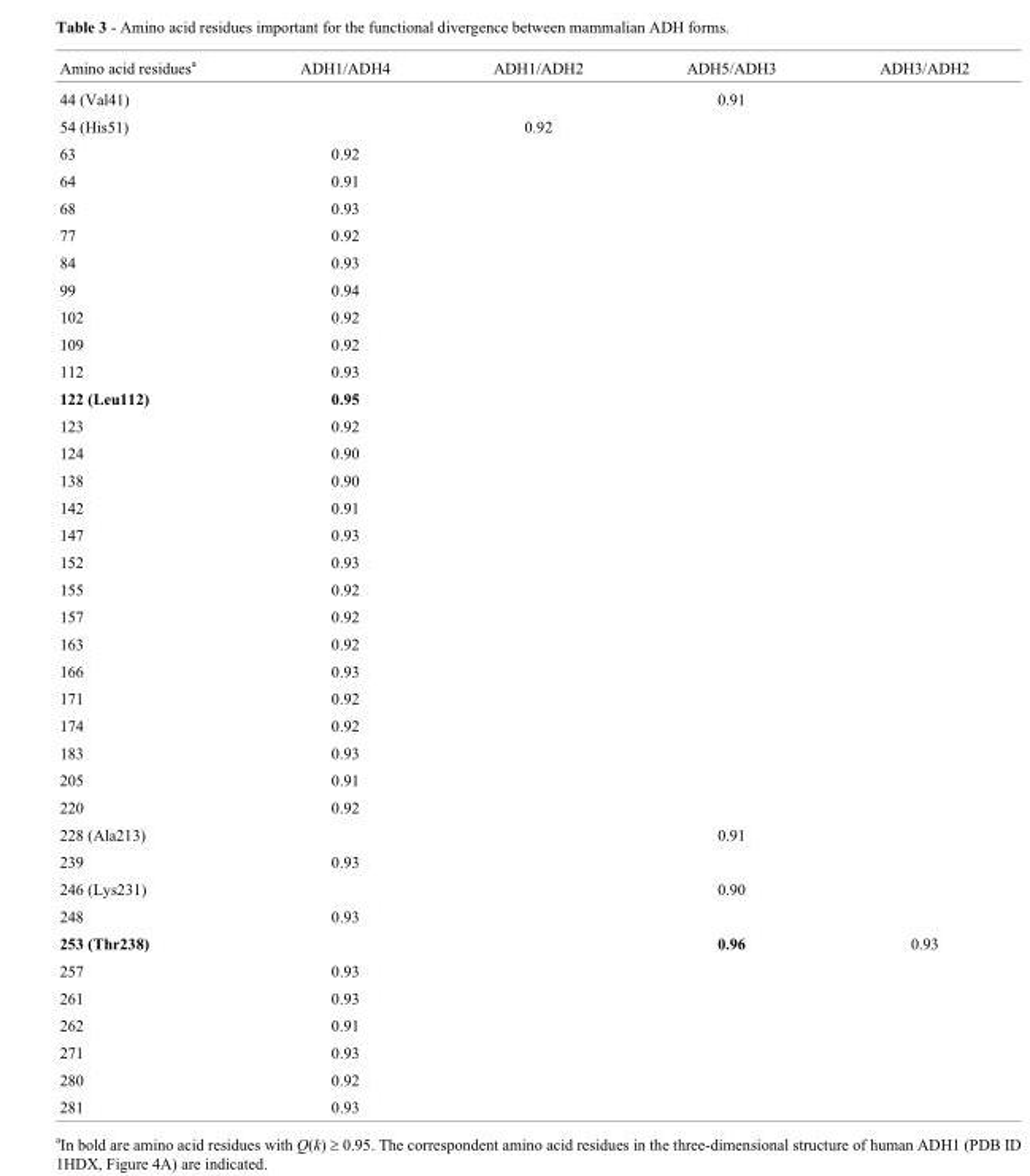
<table><thead><tr><td>Amino acid residues<sup>a</sup></td><td>ADH1/ADH4</td><td>ADH1/ADH2</td><td>ADH5/ADH3</td><td>ADH3/ADH2</td></tr></thead><tbody><tr><td>44 (Val41)</td><td></td><td></td><td>0.91</td><td></td></tr><tr><td>54 (His51)</td><td></td><td>0.92</td><td></td><td></td></tr><tr><td>63</td><td>0.92</td><td></td><td></td><td></td></tr><tr><td>64</td><td>0.91</td><td></td><td></td><td></td></tr><tr><td>68</td><td>0.93</td><td></td><td></td><td></td></tr><tr><td>77</td><td>0.92</td><td></td><td></td><td></td></tr><tr><td>84</td><td>0.93</td><td></td><td></td><td></td></tr><tr><td>99</td><td>0.94</td><td></td><td></td><td></td></tr><tr><td>102</td><td>0.92</td><td></td><td></td><td></td></tr><tr><td>109</td><td>0.92</td><td></td><td></td><td></td></tr><tr><td>112</td><td>0.93</td><td></td><td></td><td></td></tr><tr><td>122 (Leu112)</td><td>0.95</td><td></td><td></td><td></td></tr><tr><td>123</td><td>0.92</td><td></td><td></td><td></td></tr><tr><td>124</td><td>0.90</td><td></td><td></td><td></td></tr><tr><td>138</td><td>0.90</td><td></td><td></td><td></td></tr><tr><td>142</td><td>0.91</td><td></td><td></td><td></td></tr><tr><td>147</td><td>0.93</td><td></td><td></td><td></td></tr><tr><td>152</td><td>0.93</td><td></td><td></td><td></td></tr><tr><td>155</td><td>0.92</td><td></td><td></td><td></td></tr><tr><td>157</td><td>0.92</td><td></td><td></td><td></td></tr><tr><td>163</td><td>0.92</td><td></td><td></td><td></td></tr><tr><td>166</td><td>0.93</td><td></td><td></td><td></td></tr><tr><td>171</td><td>0.92</td><td></td><td></td><td></td></tr><tr><td>174</td><td>0.92</td><td></td><td></td><td></td></tr><tr><td>183</td><td>0.93</td><td></td><td></td><td></td></tr><tr><td>205</td><td>0.91</td><td></td><td></td><td></td></tr><tr><td>220</td><td>0.92</td><td></td><td></td><td></td></tr><tr><td>228 (Ala213)</td><td></td><td></td><td>0.91</td><td></td></tr><tr><td>239</td><td>0.93</td><td></td><td></td><td></td></tr><tr><td>246 (Lys231)</td><td></td><td></td><td>0.90</td><td></td></tr><tr><td>248</td><td>0.93</td><td></td><td></td><td></td></tr><tr><td>253 (Thr238)</td><td></td><td></td><td>0.96</td><td>0.93</td></tr><tr><td>257</td><td>0.93</td><td></td><td></td><td></td></tr><tr><td>261</td><td>0.93</td><td></td><td></td><td></td></tr><tr><td>262</td><td>0.91</td><td></td><td></td><td></td></tr><tr><td>271</td><td>0.93</td><td></td><td></td><td></td></tr><tr><td>280</td><td>0.92</td><td></td><td></td><td></td></tr><tr><td>281</td><td>0.93</td><td></td><td></td><td></td></tr></tbody></table>